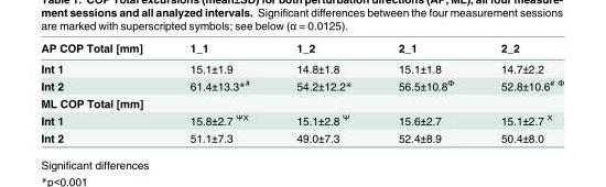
<table><thead><tr><td>AP COP Total [mm]</td><td>1_1</td><td>1_2</td><td>2_1</td><td>2_2</td></tr></thead><tbody><tr><td>Int 1</td><td>15.1±1.9</td><td>14.8±1.8</td><td>15.1±1.8</td><td>14.7±2.2</td></tr><tr><td>Int 2</td><td>61.4±13.3*<sup>#</sup></td><td>54.2±12.2*</td><td>56.5±10.8<sup>Φ</sup></td><td>52.8±10.6<sup># Φ</sup></td></tr><tr><td colspan="5">ML COP Total [mm]</td></tr><tr><td>Int 1</td><td>15.8±2.7 <sup>ΨΧ</sup></td><td>15.1±2.8 <sup>Ψ</sup></td><td>15.6±2.7</td><td>15.1±2.7 <sup>Χ</sup></td></tr><tr><td>Int 2</td><td>51.1±7.3</td><td>49.0±7.3</td><td>52.4±8.9</td><td>50.4±8.0</td></tr></tbody></table>